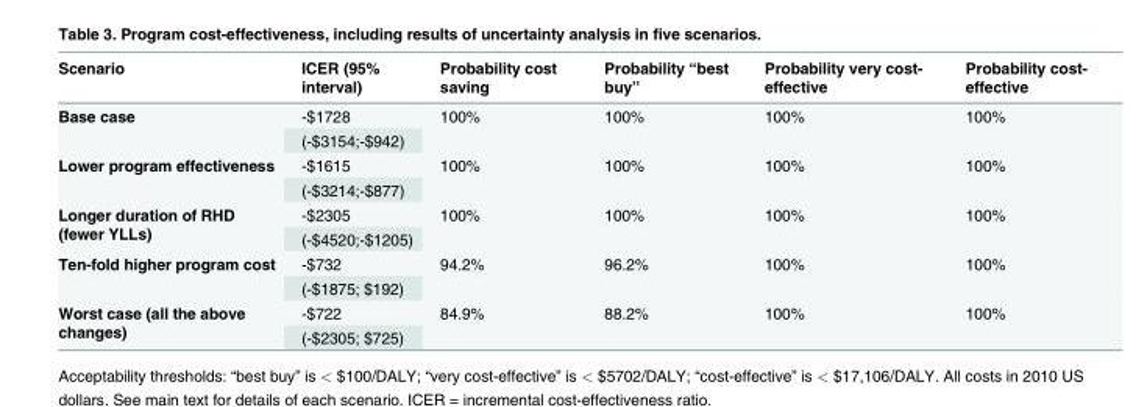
<table><thead><tr><td>Scenario</td><td>ICER (95% interval)</td><td>Probability cost saving</td><td>Probability “best buy”</td><td>Probability very cost- effective</td><td>Probability cost- effective</td></tr></thead><tbody><tr><td rowspan="2">Base case</td><td>-$1728</td><td rowspan="2">100%</td><td rowspan="2">100%</td><td rowspan="2">100%</td><td rowspan="2">100%</td></tr><tr><td>(-$3154;-$942)</td></tr><tr><td rowspan="2">Lower program effectiveness</td><td>-$1615</td><td rowspan="2">100%</td><td rowspan="2">100%</td><td rowspan="2">100%</td><td rowspan="2">100%</td></tr><tr><td>(-$3214;-$877)</td></tr><tr><td rowspan="2">Longer duration of RHD (fewer YLLs)</td><td>-$2305</td><td rowspan="2">100%</td><td rowspan="2">100%</td><td rowspan="2">100%</td><td rowspan="2">100%</td></tr><tr><td>(-$4520;-$1205)</td></tr><tr><td rowspan="2">Ten-fold higher program cost</td><td>-$732</td><td rowspan="2">94.2%</td><td rowspan="2">96.2%</td><td rowspan="2">100%</td><td rowspan="2">100%</td></tr><tr><td>(-$1875; $192)</td></tr><tr><td rowspan="2">Worst case (all the above changes)</td><td>-$722</td><td rowspan="2">84.9%</td><td rowspan="2">88.2%</td><td rowspan="2">100%</td><td rowspan="2">100%</td></tr><tr><td>(-$2305; $725)</td></tr></tbody></table>